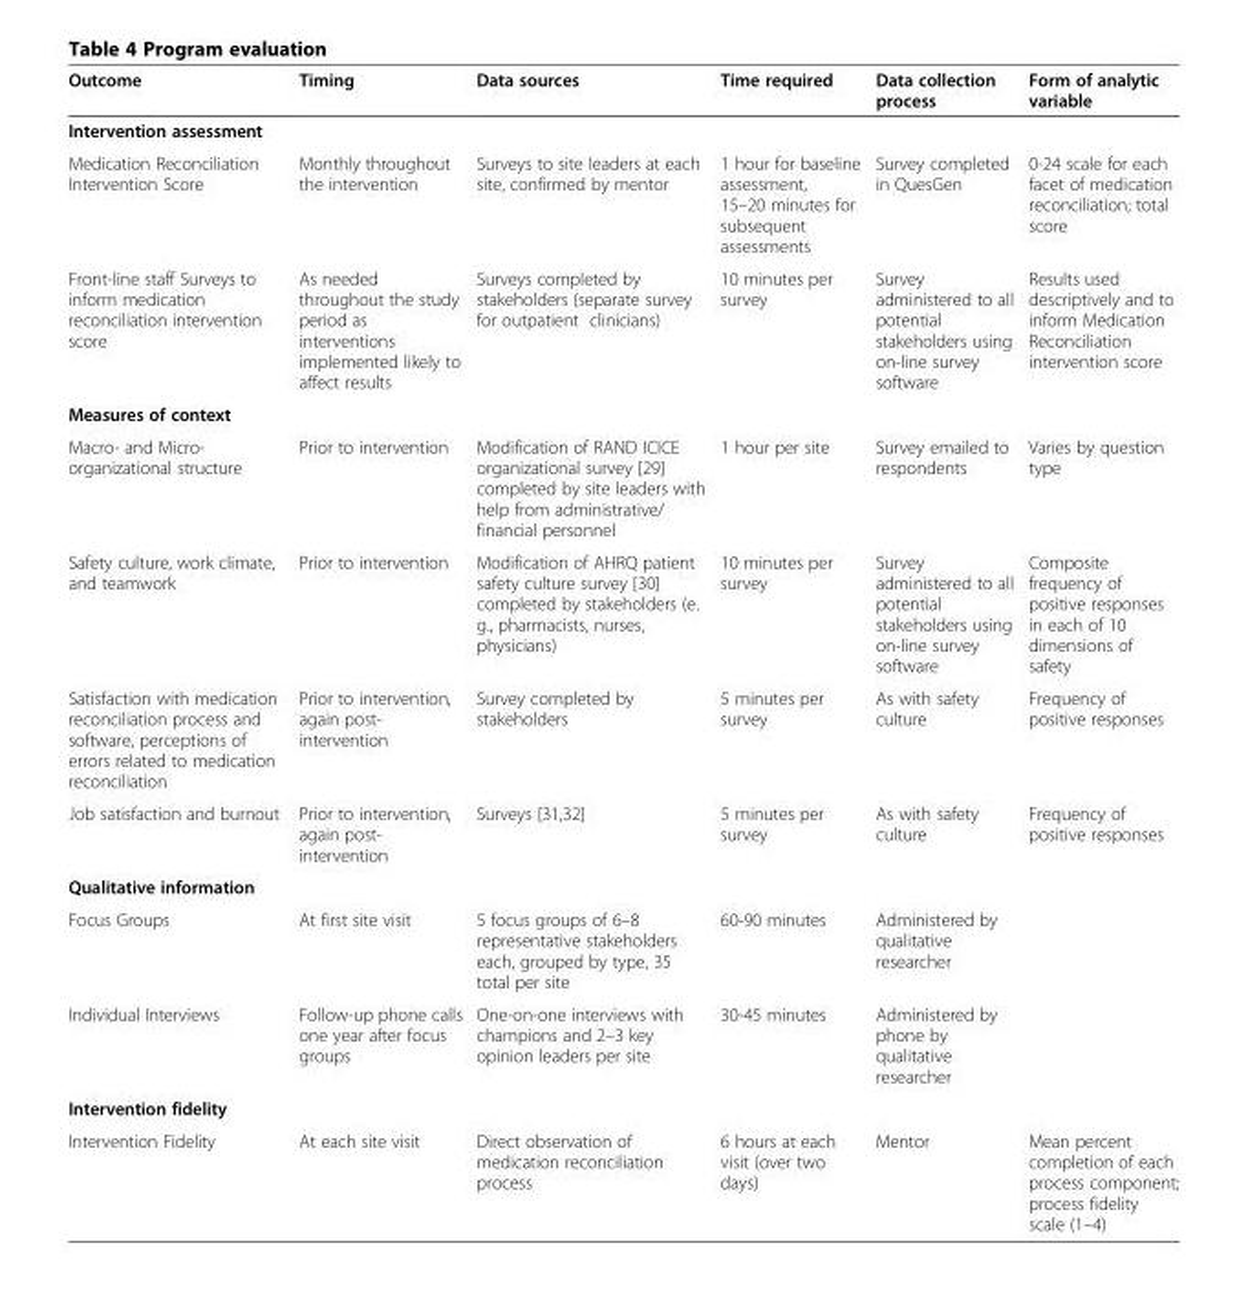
<table><thead><tr><td>Outcome</td><td>Timing</td><td>Data sources</td><td>Time required</td><td>Data collection process</td><td>Form of analytic variable</td></tr></thead><tbody><tr><td colspan="6">Intervention assessment</td></tr><tr><td>Medication Reconciliation Intervention Score</td><td>Monthly throughout the intervention</td><td>Surveys to site leaders at each site, confirmed by mentor</td><td>1 hour for baseline assessment, 15–20 minutes for subsequent assessments</td><td>Survey completed in QuesGen</td><td>0-24 scale for each facet of medication reconciliation; total score</td></tr><tr><td>Front-line staff Surveys to inform medication reconciliation intervention score</td><td>As needed throughout the study period as interventions implemented likely to affect results</td><td>Surveys completed by stakeholders (separate survey for outpatient clinicians)</td><td>10 minutes per survey</td><td>Survey administered to all potential stakeholders using on-line survey software</td><td>Results used descriptively and to inform Medication Reconciliation intervention score</td></tr><tr><td colspan="6">Measures of context</td></tr><tr><td>Macro- and Micro- organizational structure</td><td>Prior to intervention</td><td>Modification of RAND ICICE organizational survey [29] completed by site leaders with help from administrative/ financial personnel</td><td>1 hour per site</td><td>Survey emailed to respondents</td><td>Varies by question type</td></tr><tr><td>Safety culture, work climate, and teamwork</td><td>Prior to intervention</td><td>Modification of AHRQ patient safety culture survey [30] completed by stakeholders (e. g., pharmacists, nurses, physicians)</td><td>10 minutes per survey</td><td>Survey administered to all potential stakeholders using on-line survey software</td><td>Composite frequency of positive responses in each of 10 dimensions of safety</td></tr><tr><td>Satisfaction with medication reconciliation process and software, perceptions of errors related to medication reconciliation</td><td>Prior to intervention, again post- intervention</td><td>Survey completed by stakeholders</td><td>5 minutes per survey</td><td>As with safety culture</td><td>Frequency of positive responses</td></tr><tr><td>Job satisfaction and burnout</td><td>Prior to intervention, again post- intervention</td><td>Surveys [31,32]</td><td>5 minutes per survey</td><td>As with safety culture</td><td>Frequency of positive responses</td></tr><tr><td colspan="6">Qualitative information</td></tr><tr><td>Focus Groups</td><td>At first site visit</td><td>5 focus groups of 6–8 representative stakeholders each, grouped by type, 35 total per site</td><td>60-90 minutes</td><td>Administered by qualitative researcher</td><td></td></tr><tr><td>Individual Interviews</td><td>Follow-up phone calls one year after focus groups</td><td>One-on-one interviews with champions and 2–3 key opinion leaders per site</td><td>30-45 minutes</td><td>Administered by phone by qualitative researcher</td><td></td></tr><tr><td colspan="6">Intervention fidelity</td></tr><tr><td>Intervention Fidelity</td><td>At each site visit</td><td>Direct observation of medication reconciliation process</td><td>6 hours at each visit (over two days)</td><td>Mentor</td><td>Mean percent completion of each process component; process fidelity scale (1–4)</td></tr></tbody></table>